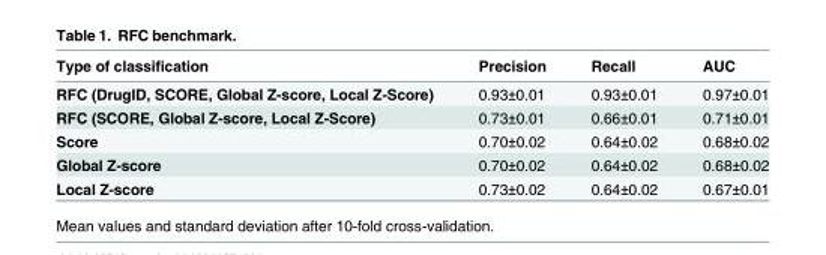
<table><thead><tr><td>Type of classification</td><td>Precision</td><td>Recall</td><td>AUC</td></tr></thead><tbody><tr><td>RFC (DrugID, SCORE, Global Z-score, Local Z-Score)</td><td>0.93±0.01</td><td>0.93±0.01</td><td>0.97±0.01</td></tr><tr><td>RFC (SCORE, Global Z-score, Local Z-Score)</td><td>0.73±0.01</td><td>0.66±0.01</td><td>0.71±0.01</td></tr><tr><td>Score</td><td>0.70±0.02</td><td>0.64±0.02</td><td>0.68±0.02</td></tr><tr><td>Global Z-score</td><td>0.70±0.02</td><td>0.64±0.02</td><td>0.68±0.02</td></tr><tr><td>Local Z-score</td><td>0.73±0.02</td><td>0.64±0.02</td><td>0.67±0.01</td></tr></tbody></table>